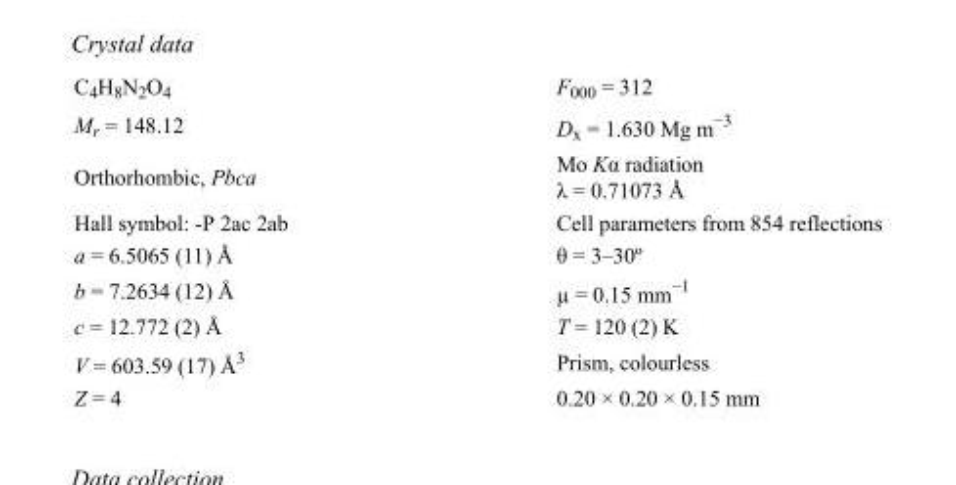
<table><tbody><tr><td>C<sub>4</sub>H<sub>8</sub>N<sub>2</sub>O<sub>4</sub></td><td>F<sub>000</sub> = 312</td></tr><tr><td>M<sub>r</sub> = 148.12</td><td>D<sub>x</sub> = 1.630 Mg m<sup>−3</sup></td></tr><tr><td>Orthorhombic, Pbca</td><td>Mo Kα radiation λ = 0.71073 Å</td></tr><tr><td>Hall symbol: -P 2ac 2ab</td><td>Cell parameters from 854 reflections</td></tr><tr><td>a = 6.5065 (11) Å</td><td>θ = 3–30º</td></tr><tr><td>b = 7.2634 (12) Å</td><td>µ = 0.15 mm<sup>−1</sup></td></tr><tr><td>c = 12.772 (2) Å</td><td>T = 120 (2) K</td></tr><tr><td>V = 603.59 (17) Å<sup>3</sup></td><td>Prism, colourless</td></tr><tr><td>Z = 4</td><td>0.20 × 0.20 × 0.15 mm</td></tr></tbody></table>